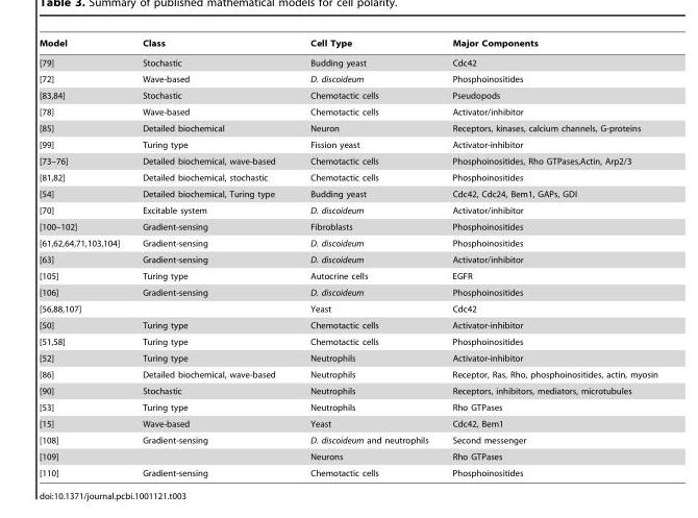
<table><thead><tr><td>Model</td><td>Class</td><td>Cell Type</td><td>Major Components</td></tr></thead><tbody><tr><td>[79]</td><td>Stochastic</td><td>Budding yeast</td><td>Cdc42</td></tr><tr><td>[72]</td><td>Wave-based</td><td>D. discoideum</td><td>Phosphoinositides</td></tr><tr><td>[83,84]</td><td>Stochastic</td><td>Chemotactic cells</td><td>Pseudopods</td></tr><tr><td>[78]</td><td>Wave-based</td><td>Chemotactic cells</td><td>Activator/inhibitor</td></tr><tr><td>[85]</td><td>Detailed biochemical</td><td>Neuron</td><td>Receptors, kinases, calcium channels, G-proteins</td></tr><tr><td>[99]</td><td>Turing type</td><td>Fission yeast</td><td>Activator-inhibitor</td></tr><tr><td>[73–76]</td><td>Detailed biochemical, wave-based</td><td>Chemotactic cells</td><td>Phosphoinositides, Rho GTPases,Actin, Arp2/3</td></tr><tr><td>[81,82]</td><td>Detailed biochemical, stochastic</td><td>Chemotactic cells</td><td>Phosphoinositides</td></tr><tr><td>[54]</td><td>Detailed biochemical, Turing type</td><td>Budding yeast</td><td>Cdc42, Cdc24, Bem1, GAPs, GDI</td></tr><tr><td>[70]</td><td>Excitable system</td><td>D. discoideum</td><td>Activator/inhibitor</td></tr><tr><td>[100–102]</td><td>Gradient-sensing</td><td>Fibroblasts</td><td>Phosphoinositides</td></tr><tr><td>[61,62,64,71,103,104]</td><td>Gradient-sensing</td><td>D. discoideum</td><td>Phosphoinositides</td></tr><tr><td>[63]</td><td>Gradient-sensing</td><td>D. discoideum</td><td>Activator/inhibitor</td></tr><tr><td>[105]</td><td>Turing type</td><td>Autocrine cells</td><td>EGFR</td></tr><tr><td>[106]</td><td>Gradient-sensing</td><td>D. discoideum</td><td>Phosphoinositides</td></tr><tr><td>[56,88,107]</td><td></td><td>Yeast</td><td>Cdc42</td></tr><tr><td>[50]</td><td>Turing type</td><td>Chemotactic cells</td><td>Activator-inhibitor</td></tr><tr><td>[51,58]</td><td>Turing type</td><td>Chemotactic cells</td><td>Phosphoinositides</td></tr><tr><td>[52]</td><td>Turing type</td><td>Neutrophils</td><td>Activator-inhibitor</td></tr><tr><td>[86]</td><td>Detailed biochemical, wave-based</td><td>Neutrophils</td><td>Receptor, Ras, Rho, phosphoinositides, actin, myosin</td></tr><tr><td>[90]</td><td>Stochastic</td><td>Neutrophils</td><td>Receptors, inhibitors, mediators, microtubules</td></tr><tr><td>[53]</td><td>Turing type</td><td>Neutrophils</td><td>Rho GTPases</td></tr><tr><td>[15]</td><td>Wave-based</td><td>Yeast</td><td>Cdc42, Bem1</td></tr><tr><td>[108]</td><td>Gradient-sensing</td><td>D. discoideum and neutrophils</td><td>Second messenger</td></tr><tr><td>[109]</td><td></td><td>Neurons</td><td>Rho GTPases</td></tr><tr><td>[110]</td><td>Gradient-sensing</td><td>Chemotactic cells</td><td>Phosphoinositides</td></tr></tbody></table>